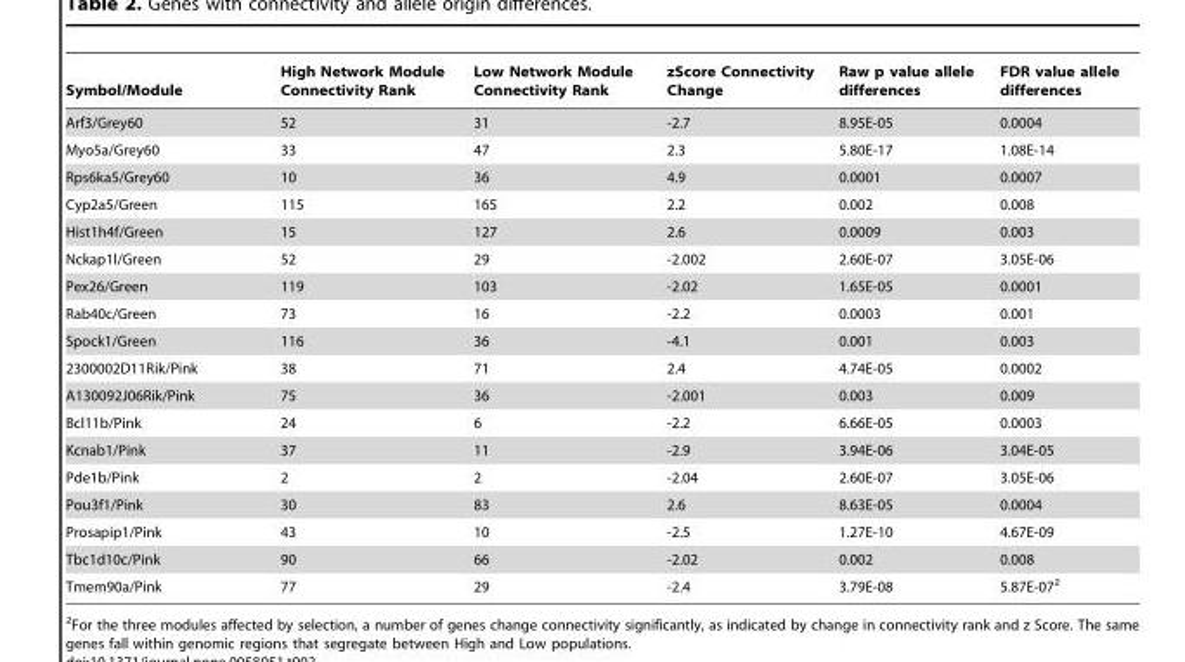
<table><thead><tr><td>Symbol/Module</td><td>High Network Module Connectivity Rank</td><td>Low Network Module Connectivity Rank</td><td>zScore Connectivity Change</td><td>Raw p value allele differences</td><td>FDR value allele differences</td></tr></thead><tbody><tr><td>Arf3/Grey60</td><td>52</td><td>31</td><td>-2.7</td><td>8.95E-05</td><td>0.0004</td></tr><tr><td>Myo5a/Grey60</td><td>33</td><td>47</td><td>2.3</td><td>5.80E-17</td><td>1.08E-14</td></tr><tr><td>Rps6ka5/Grey60</td><td>10</td><td>36</td><td>4.9</td><td>0.0001</td><td>0.0007</td></tr><tr><td>Cyp2a5/Green</td><td>115</td><td>165</td><td>2.2</td><td>0.002</td><td>0.008</td></tr><tr><td>Hist1h4f/Green</td><td>15</td><td>127</td><td>2.6</td><td>0.0009</td><td>0.003</td></tr><tr><td>Nckap1l/Green</td><td>52</td><td>29</td><td>-2.002</td><td>2.60E-07</td><td>3.05E-06</td></tr><tr><td>Pex26/Green</td><td>119</td><td>103</td><td>-2.02</td><td>1.65E-05</td><td>0.0001</td></tr><tr><td>Rab40c/Green</td><td>73</td><td>16</td><td>-2.2</td><td>0.0003</td><td>0.001</td></tr><tr><td>Spock1/Green</td><td>116</td><td>36</td><td>-4.1</td><td>0.001</td><td>0.003</td></tr><tr><td>2300002D11Rik/Pink</td><td>38</td><td>71</td><td>2.4</td><td>4.74E-05</td><td>0.0002</td></tr><tr><td>A130092J06Rik/Pink</td><td>75</td><td>36</td><td>-2.001</td><td>0.003</td><td>0.009</td></tr><tr><td>Bcl11b/Pink</td><td>24</td><td>6</td><td>-2.2</td><td>6.66E-05</td><td>0.0003</td></tr><tr><td>Kcnab1/Pink</td><td>37</td><td>11</td><td>-2.9</td><td>3.94E-06</td><td>3.04E-05</td></tr><tr><td>Pde1b/Pink</td><td>2</td><td>2</td><td>-2.04</td><td>2.60E-07</td><td>3.05E-06</td></tr><tr><td>Pou3f1/Pink</td><td>30</td><td>83</td><td>2.6</td><td>8.63E-05</td><td>0.0004</td></tr><tr><td>Prosapip1/Pink</td><td>43</td><td>10</td><td>-2.5</td><td>1.27E-10</td><td>4.67E-09</td></tr><tr><td>Tbc1d10c/Pink</td><td>90</td><td>66</td><td>-2.02</td><td>0.002</td><td>0.008</td></tr><tr><td>Tmem90a/Pink</td><td>77</td><td>29</td><td>-2.4</td><td>3.79E-08</td><td>5.87E-07<sup>2</sup></td></tr></tbody></table>